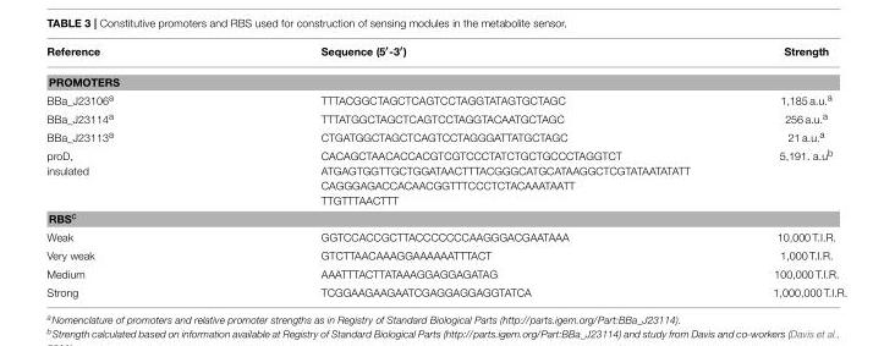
<table><thead><tr><td>Reference</td><td>Sequence (5′-3′)</td><td>Strength</td></tr></thead><tbody><tr><td colspan="3">PROMOTERS</td></tr><tr><td>BBa_J23106<sup>a</sup></td><td>TTTACGGCTAGCTCAGTCCTAGGTATAGTGCTAGC</td><td>1,185 a.u.<sup>a</sup></td></tr><tr><td>BBa_J23114<sup>a</sup></td><td>TTTATGGCTAGCTCAGTCCTAGGTACAATGCTAGC</td><td>256 a.u.<sup>a</sup></td></tr><tr><td>BBa_J23113<sup>a</sup></td><td>CTGATGGCTAGCTCAGTCCTAGGGATTATGCTAGC</td><td>21 a.u.<sup>a</sup></td></tr><tr><td>proD, insulated</td><td>CACAGCTAACACCACGTCGTCCCTATCTGCTGCCCTAGGTCT ATGAGTGGTTGCTGGATAACTTTACGGGCATGCATAAGGCTCGTATAATATATT CAGGGAGACCACAACGGTTTCCCTCTACAAATAATT TTGTTTAACTTT</td><td>5,191. a.u<sup>b</sup></td></tr><tr><td colspan="3">RBS<sup>c</sup></td></tr><tr><td>Weak</td><td>GGTCCACCGCTTACCCCCCCAAGGGACGAATAAA</td><td>10,000 T.I.R.</td></tr><tr><td>Very weak</td><td>GTCTTAACAAAGGAAAAAATTTACT</td><td>1,000 T.I.R.</td></tr><tr><td>Medium</td><td>AAATTTACTTATAAAGGAGGAGATAG</td><td>100,000 T.I.R.</td></tr><tr><td>Strong</td><td>TCGGAAGAAGAATCGAGGAGGAGGTATCA</td><td>1,000,000 T.I.R.</td></tr></tbody></table>